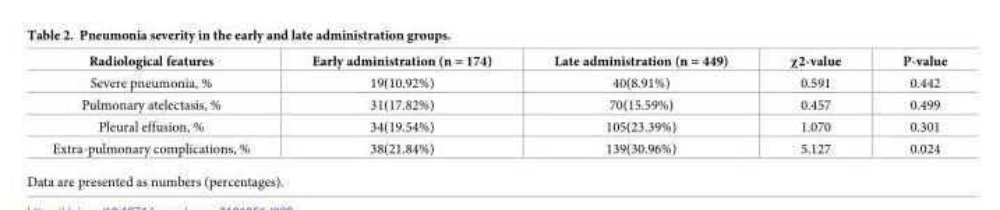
<table><thead><tr><td>Radiological features</td><td>Early administration (n = 174)</td><td>Late administration (n = 449)</td><td>χ2-value</td><td>P-value</td></tr></thead><tbody><tr><td>Severe pneumonia, %</td><td>19(10.92%)</td><td>40(8.91%)</td><td>0.591</td><td>0.442</td></tr><tr><td>Pulmonary atelectasis, %</td><td>31(17.82%)</td><td>70(15.59%)</td><td>0.457</td><td>0.499</td></tr><tr><td>Pleural effusion, %</td><td>34(19.54%)</td><td>105(23.39%)</td><td>1.070</td><td>0.301</td></tr><tr><td>Extra-pulmonary complications, %</td><td>38(21.84%)</td><td>139(30.96%)</td><td>5.127</td><td>0.024</td></tr></tbody></table>